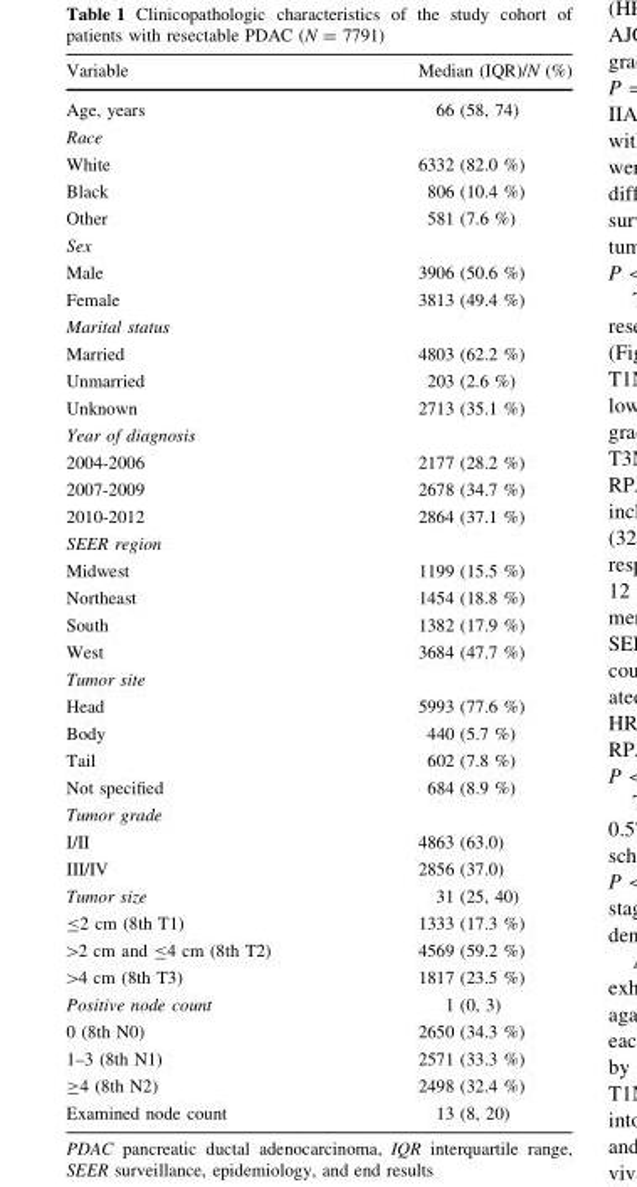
<table><thead><tr><td>Variable</td><td>Median (IQR)/N (%)</td></tr></thead><tbody><tr><td>Age, years</td><td>66 (58, 74)</td></tr><tr><td colspan="2">Race</td></tr><tr><td>White</td><td>6332 (82.0 %)</td></tr><tr><td>Black</td><td>806 (10.4 %)</td></tr><tr><td>Other</td><td>581 (7.6 %)</td></tr><tr><td colspan="2">Sex</td></tr><tr><td>Male</td><td>3906 (50.6 %)</td></tr><tr><td>Female</td><td>3813 (49.4 %)</td></tr><tr><td colspan="2">Marital status</td></tr><tr><td>Married</td><td>4803 (62.2 %)</td></tr><tr><td>Unmarried</td><td>203 (2.6 %)</td></tr><tr><td>Unknown</td><td>2713 (35.1 %)</td></tr><tr><td colspan="2">Year of diagnosis</td></tr><tr><td>2004-2006</td><td>2177 (28.2 %)</td></tr><tr><td>2007-2009</td><td>2678 (34.7 %)</td></tr><tr><td>2010-2012</td><td>2864 (37.1 %)</td></tr><tr><td colspan="2">SEER region</td></tr><tr><td>Midwest</td><td>1199 (15.5 %)</td></tr><tr><td>Northeast</td><td>1454 (18.8 %)</td></tr><tr><td>South</td><td>1382 (17.9 %)</td></tr><tr><td>West</td><td>3684 (47.7 %)</td></tr><tr><td colspan="2">Tumor site</td></tr><tr><td>Head</td><td>5993 (77.6 %)</td></tr><tr><td>Body</td><td>440 (5.7 %)</td></tr><tr><td>Tail</td><td>602 (7.8 %)</td></tr><tr><td>Not specified</td><td>684 (8.9 %)</td></tr><tr><td colspan="2">Tumor grade</td></tr><tr><td>I/II</td><td>4863 (63.0)</td></tr><tr><td>III/IV</td><td>2856 (37.0)</td></tr><tr><td>Tumor size</td><td>31 (25, 40)</td></tr><tr><td>≤2 cm (8th T1)</td><td>1333 (17.3 %)</td></tr><tr><td>&gt;2 cm and ≤4 cm (8th T2)</td><td>4569 (59.2 %)</td></tr><tr><td>&gt;4 cm (8th T3)</td><td>1817 (23.5 %)</td></tr><tr><td>Positive node count</td><td>1 (0, 3)</td></tr><tr><td>0 (8th N0)</td><td>2650 (34.3 %)</td></tr><tr><td>1–3 (8th N1)</td><td>2571 (33.3 %)</td></tr><tr><td>≥4 (8th N2)</td><td>2498 (32.4 %)</td></tr><tr><td>Examined node count</td><td>13 (8, 20)</td></tr></tbody></table>